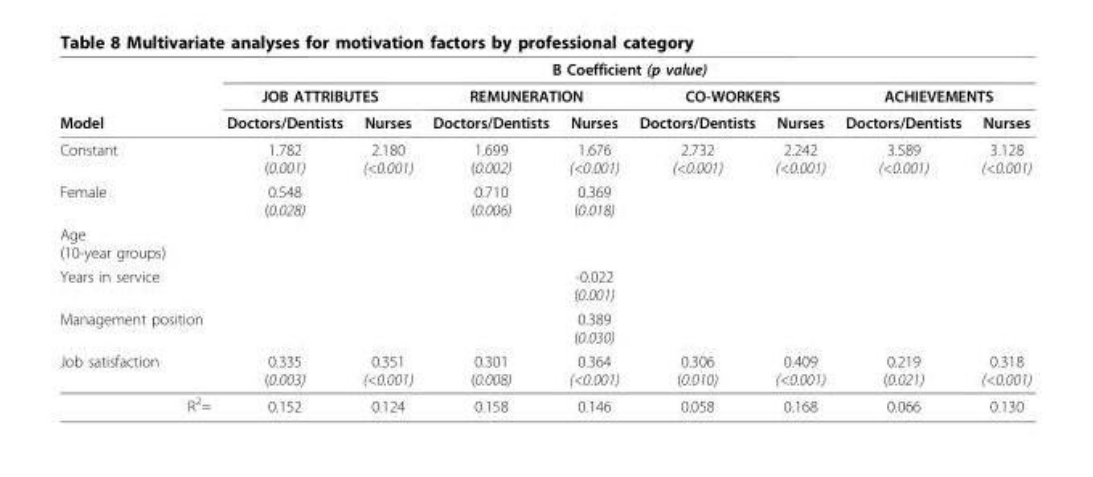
<table><thead><tr><td rowspan="3">Model</td><td colspan="8">B Coefficient (p value)</td></tr><tr><td colspan="2">JOB ATTRIBUTES</td><td colspan="2">REMUNERATION</td><td colspan="2">CO-WORKERS</td><td colspan="2">ACHIEVEMENTS</td></tr><tr><td>Doctors/Dentists</td><td>Nurses</td><td>Doctors/Dentists</td><td>Nurses</td><td>Doctors/Dentists</td><td>Nurses</td><td>Doctors/Dentists</td><td>Nurses</td></tr></thead><tbody><tr><td>Constant</td><td>1.782 (0.001)</td><td>2.180 (&lt;0.001)</td><td>1.699 (0.002)</td><td>1.676 (&lt;0.001)</td><td>2.732 (&lt;0.001)</td><td>2.242 (&lt;0.001)</td><td>3.589 (&lt;0.001)</td><td>3.128 (&lt;0.001)</td></tr><tr><td>Female</td><td>0.548 (0.028)</td><td></td><td>0.710 (0.006)</td><td>0.369 (0.018)</td><td></td><td></td><td></td><td></td></tr><tr><td colspan="9">Age (10-year groups)</td></tr><tr><td>Years in service</td><td></td><td></td><td></td><td>-0.022 (0.001)</td><td></td><td></td><td></td><td></td></tr><tr><td>Management position</td><td></td><td></td><td></td><td>0.389 (0.030)</td><td></td><td></td><td></td><td></td></tr><tr><td>Job satisfaction</td><td>0.335 (0.003)</td><td>0.351 (&lt;0.001)</td><td>0.301 (0.008)</td><td>0.364 (&lt;0.001)</td><td>0.306 (0.010)</td><td>0.409 (&lt;0.001)</td><td>0.219 (0.021)</td><td>0.318 (&lt;0.001)</td></tr><tr><td>R<sup>2</sup>=</td><td>0.152</td><td>0.124</td><td>0.158</td><td>0.146</td><td>0.058</td><td>0.168</td><td>0.066</td><td>0.130</td></tr></tbody></table>